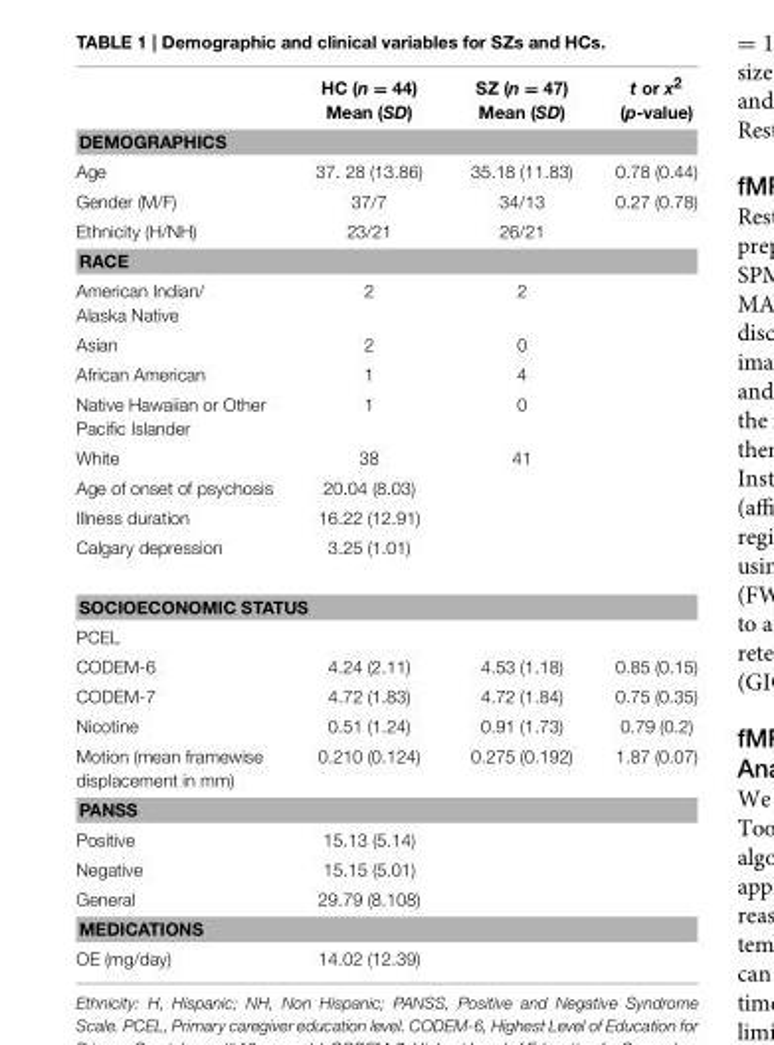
<table><thead><tr><td></td><td>HC (n = 44) Mean (SD)</td><td>SZ (n = 47) Mean (SD)</td><td>t or x<sup>2</sup> (p-value)</td></tr></thead><tbody><tr><td colspan="4">DEMOGRAPHICS</td></tr><tr><td>Age</td><td>37. 28 (13.86)</td><td>35.18 (11.83)</td><td>0.78 (0.44)</td></tr><tr><td>Gender (M/F)</td><td>37/7</td><td>34/13</td><td>0.27 (0.78)</td></tr><tr><td>Ethnicity (H/NH)</td><td>23/21</td><td>26/21</td><td></td></tr><tr><td colspan="4">RACE</td></tr><tr><td>American Indian/ Alaska Native</td><td>2</td><td>2</td><td></td></tr><tr><td>Asian</td><td>2</td><td>0</td><td></td></tr><tr><td>African American</td><td>1</td><td>4</td><td></td></tr><tr><td>Native Hawaiian or Other Pacific Islander</td><td>1</td><td>0</td><td></td></tr><tr><td>White</td><td>38</td><td>41</td><td></td></tr><tr><td>Age of onset of psychosis</td><td>20.04 (8.03)</td><td></td><td></td></tr><tr><td>Illness duration</td><td>16.22 (12.91)</td><td></td><td></td></tr><tr><td>Calgary depression</td><td>3.25 (1.01)</td><td></td><td></td></tr><tr><td colspan="4">SOCIOECONOMIC STATUS</td></tr><tr><td colspan="4">PCEL</td></tr><tr><td>CODEM-6</td><td>4.24 (2.11)</td><td>4.53 (1.18)</td><td>0.85 (0.15)</td></tr><tr><td>CODEM-7</td><td>4.72 (1.83)</td><td>4.72 (1.84)</td><td>0.75 (0.35)</td></tr><tr><td>Nicotine</td><td>0.51 (1.24)</td><td>0.91 (1.73)</td><td>0.79 (0.2)</td></tr><tr><td>Motion (mean framewise displacement in mm)</td><td>0.210 (0.124)</td><td>0.275 (0.192)</td><td>1.87 (0.07)</td></tr><tr><td colspan="4">PANSS</td></tr><tr><td>Positive</td><td>15.13 (5.14)</td><td></td><td></td></tr><tr><td>Negative</td><td>15.15 (5.01)</td><td></td><td></td></tr><tr><td>General</td><td>29.79 (8.108)</td><td></td><td></td></tr><tr><td colspan="4">MEDICATIONS</td></tr><tr><td>OE (mg/day)</td><td>14.02 (12.39)</td><td></td><td></td></tr></tbody></table>